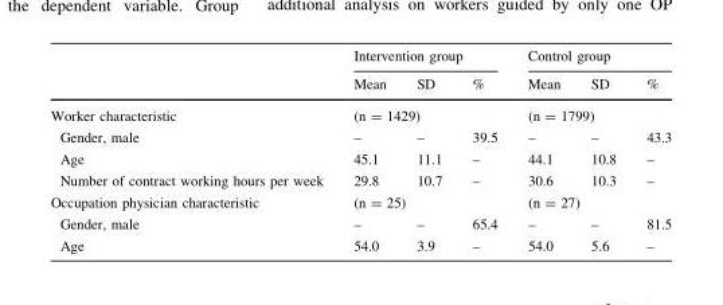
<table><thead><tr><td rowspan="2"></td><td colspan="3">Intervention group</td><td colspan="3">Control group</td></tr><tr><td>Mean</td><td>SD</td><td>%</td><td>Mean</td><td>SD</td><td>%</td></tr></thead><tbody><tr><td>Worker characteristic</td><td colspan="3">(n = 1429)</td><td colspan="3">(n = 1799)</td></tr><tr><td>Gender, male</td><td>–</td><td>–</td><td>39.5</td><td>–</td><td>–</td><td>43.3</td></tr><tr><td>Age</td><td>45.1</td><td>11.1</td><td>–</td><td>44.1</td><td>10.8</td><td>–</td></tr><tr><td>Number of contract working hours per week</td><td>29.8</td><td>10.7</td><td>–</td><td>30.6</td><td>10.3</td><td>–</td></tr><tr><td>Occupation physician characteristic</td><td colspan="3">(n = 25)</td><td colspan="3">(n = 27)</td></tr><tr><td>Gender, male</td><td>–</td><td>–</td><td>65.4</td><td>–</td><td>–</td><td>81.5</td></tr><tr><td>Age</td><td>54.0</td><td>3.9</td><td>–</td><td>54.0</td><td>5.6</td><td>–</td></tr></tbody></table>